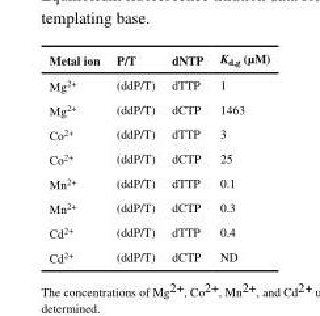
<table><thead><tr><td>Metal ion</td><td>P/T</td><td>dNTP</td><td>K<sub>d,g</sub> (μM)</td></tr></thead><tbody><tr><td>Mg<sup>2+</sup></td><td>(ddP/T)</td><td>dTTP</td><td>1</td></tr><tr><td>Mg<sup>2+</sup></td><td>(ddP/T)</td><td>dCTP</td><td>1463</td></tr><tr><td>Co<sup>2+</sup></td><td>(ddP/T)</td><td>dTTP</td><td>3</td></tr><tr><td>Co<sup>2+</sup></td><td>(ddP/T)</td><td>dCTP</td><td>25</td></tr><tr><td>Mn<sup>2+</sup></td><td>(ddP/T)</td><td>dTTP</td><td>0.1</td></tr><tr><td>Mn<sup>2+</sup></td><td>(ddP/T)</td><td>dCTP</td><td>0.3</td></tr><tr><td>Cd<sup>2+</sup></td><td>(ddP/T)</td><td>dTTP</td><td>0.4</td></tr><tr><td>Cd<sup>2+</sup></td><td>(ddP/T)</td><td>dCTP</td><td>ND</td></tr></tbody></table>